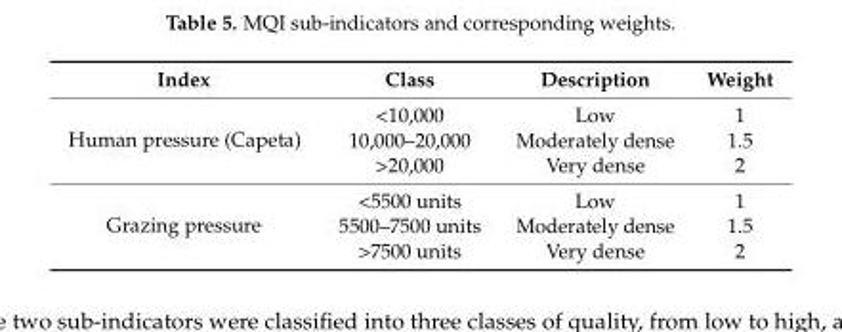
<table><thead><tr><td>Index</td><td>Class</td><td>Description</td><td>Weight</td></tr></thead><tbody><tr><td rowspan="3">Human pressure (Capeta)</td><td>&lt;10,000</td><td>Low</td><td>1</td></tr><tr><td>10,000–20,000</td><td>Moderately dense</td><td>1.5</td></tr><tr><td>&gt;20,000</td><td>Very dense</td><td>2</td></tr><tr><td rowspan="3">Grazing pressure</td><td>&lt;5500 units</td><td>Low</td><td>1</td></tr><tr><td>5500–7500 units</td><td>Moderately dense</td><td>1.5</td></tr><tr><td>&gt;7500 units</td><td>Very dense</td><td>2</td></tr></tbody></table>